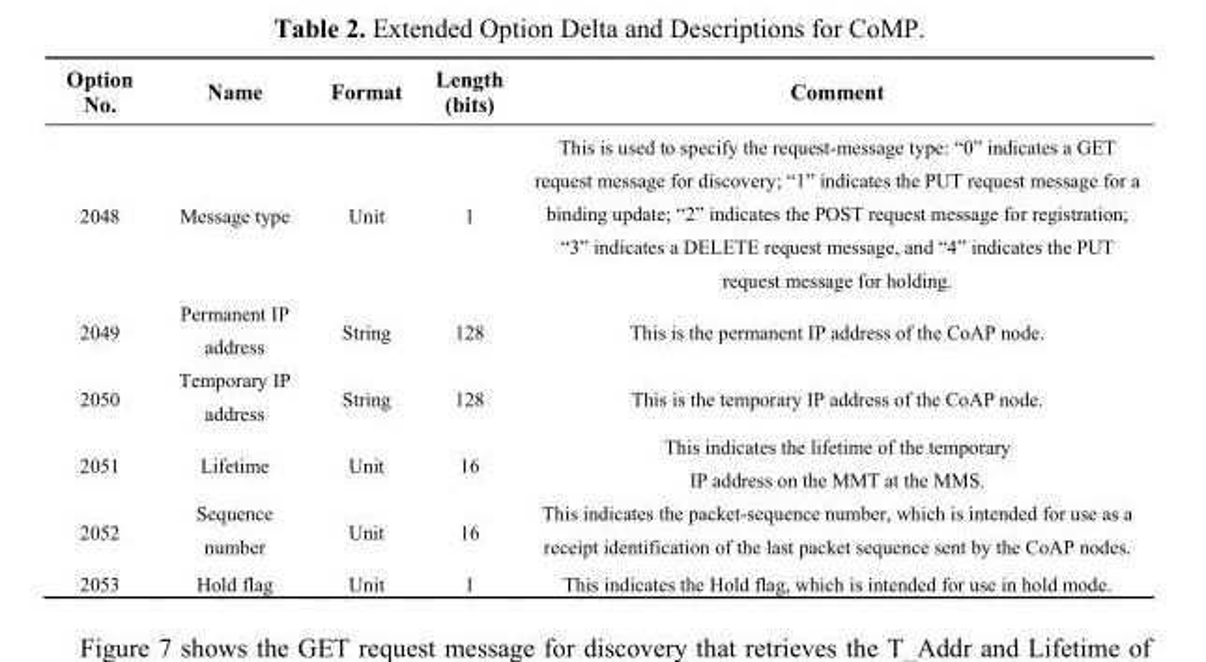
<table><thead><tr><td>Option No.</td><td>Name</td><td>Format</td><td>Length (bits)</td><td>Comment</td></tr></thead><tbody><tr><td>2048</td><td>Message type</td><td>Unit</td><td>1</td><td>This is used to specify the request-message type: “0” indicates a GET request message for discovery; “1” indicates the PUT request message for a binding update; “2” indicates the POST request message for registration; “3” indicates a DELETE request message, and “4” indicates the PUT request message for holding.</td></tr><tr><td>2049</td><td>Permanent IP address</td><td>String</td><td>128</td><td>This is the permanent IP address of the CoAP node.</td></tr><tr><td>2050</td><td>Temporary IP address</td><td>String</td><td>128</td><td>This is the temporary IP address of the CoAP node.</td></tr><tr><td>2051</td><td>Lifetime</td><td>Unit</td><td>16</td><td>This indicates the lifetime of the temporary IP address on the MMT at the MMS.</td></tr><tr><td>2052</td><td>Sequence number</td><td>Unit</td><td>16</td><td>This indicates the packet-sequence number, which is intended for use as a receipt identification of the last packet sequence sent by the CoAP nodes.</td></tr><tr><td>2053</td><td>Hold flag</td><td>Unit</td><td>1</td><td>This indicates the Hold flag, which is intended for use in hold mode.</td></tr></tbody></table>